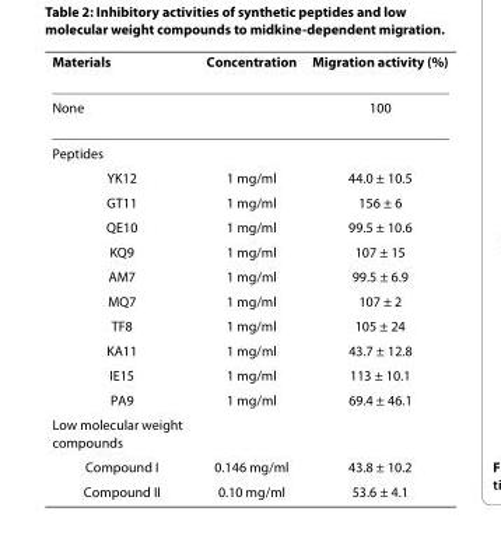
<table><thead><tr><td>Materials</td><td>Concentration</td><td>Migration activity (%)</td></tr></thead><tbody><tr><td>None</td><td></td><td>100</td></tr><tr><td colspan="3">Peptides</td></tr><tr><td>YK12</td><td>1 mg/ml</td><td>44.0 ± 10.5</td></tr><tr><td>GT11</td><td>1 mg/ml</td><td>156 ± 6</td></tr><tr><td>QE10</td><td>1 mg/ml</td><td>99.5 ± 10.6</td></tr><tr><td>KQ9</td><td>1 mg/ml</td><td>107 ± 15</td></tr><tr><td>AM7</td><td>1 mg/ml</td><td>99.5 ± 6.9</td></tr><tr><td>MQ7</td><td>1 mg/ml</td><td>107 ± 2</td></tr><tr><td>TF8</td><td>1 mg/ml</td><td>105 ± 24</td></tr><tr><td>KA11</td><td>1 mg/ml</td><td>43.7 ± 12.8</td></tr><tr><td>IE15</td><td>1 mg/ml</td><td>113 ± 10.1</td></tr><tr><td>PA9</td><td>1 mg/ml</td><td>69.4 ± 46.1</td></tr><tr><td colspan="3">Low molecular weight compounds</td></tr><tr><td>Compound I</td><td>0.146 mg/ml</td><td>43.8 ± 10.2</td></tr><tr><td>Compound II</td><td>0.10 mg/ml</td><td>53.6 ± 4.1</td></tr></tbody></table>